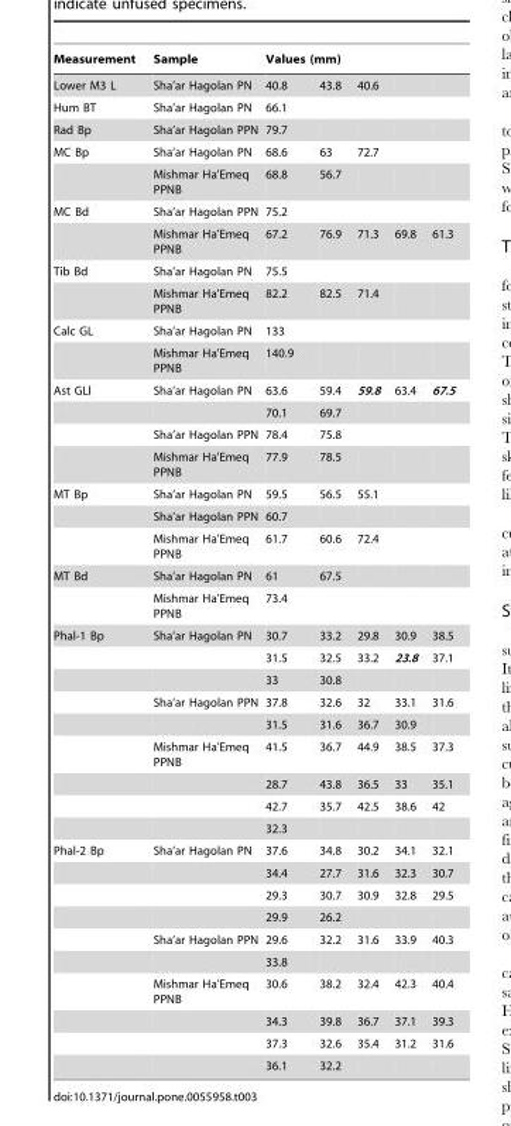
<table><thead><tr><td rowspan="2">Measurement Lower M3 L</td><td rowspan="2">Sample Sha’ar Hagolan PN</td><td colspan="5">Values (mm)</td></tr><tr><td>40.8</td><td>43.8</td><td>40.6</td><td></td><td></td></tr></thead><tbody><tr><td>Hum BT</td><td>Sha’ar Hagolan PN</td><td>66.1</td><td></td><td></td><td></td><td></td></tr><tr><td>Rad Bp</td><td>Sha’ar Hagolan PPN</td><td>79.7</td><td></td><td></td><td></td><td></td></tr><tr><td rowspan="2">MC Bp</td><td>Sha’ar Hagolan PN</td><td>68.6</td><td>63</td><td>72.7</td><td></td><td></td></tr><tr><td>Mishmar Ha’Emeq PPNB</td><td>68.8</td><td>56.7</td><td></td><td></td><td></td></tr><tr><td rowspan="2">MC Bd</td><td>Sha’ar Hagolan PPN</td><td>75.2</td><td></td><td></td><td></td><td></td></tr><tr><td>Mishmar Ha’Emeq PPNB</td><td>67.2</td><td>76.9</td><td>71.3</td><td>69.8</td><td>61.3</td></tr><tr><td rowspan="2">Tib Bd</td><td>Sha’ar Hagolan PN</td><td>75.5</td><td></td><td></td><td></td><td></td></tr><tr><td>Mishmar Ha’Emeq PPNB</td><td>82.2</td><td>82.5</td><td>71.4</td><td></td><td></td></tr><tr><td rowspan="2">Calc GL</td><td>Sha’ar Hagolan PN</td><td>133</td><td></td><td></td><td></td><td></td></tr><tr><td>Mishmar Ha’Emeq PPNB</td><td>140.9</td><td></td><td></td><td></td><td></td></tr><tr><td rowspan="4">Ast GLl</td><td>Sha’ar Hagolan PN</td><td>63.6</td><td>59.4</td><td>59.8</td><td>63.4</td><td>67.5</td></tr><tr><td></td><td>70.1</td><td>69.7</td><td></td><td></td><td></td></tr><tr><td>Sha’ar Hagolan PPN</td><td>78.4</td><td>75.8</td><td></td><td></td><td></td></tr><tr><td>Mishmar Ha’Emeq PPNB</td><td>77.9</td><td>78.5</td><td></td><td></td><td></td></tr><tr><td rowspan="3">MT Bp</td><td>Sha’ar Hagolan PN</td><td>59.5</td><td>56.5</td><td>55.1</td><td></td><td></td></tr><tr><td>Sha’ar Hagolan PPN</td><td>60.7</td><td></td><td></td><td></td><td></td></tr><tr><td>Mishmar Ha’Emeq PPNB</td><td>61.7</td><td>60.6</td><td>72.4</td><td></td><td></td></tr><tr><td rowspan="2">MT Bd</td><td>Sha’ar Hagolan PN</td><td>61</td><td>67.5</td><td></td><td></td><td></td></tr><tr><td>Mishmar Ha’Emeq PPNB</td><td>73.4</td><td></td><td></td><td></td><td></td></tr><tr><td rowspan="9">Phal-1 Bp</td><td>Sha’ar Hagolan PN</td><td>30.7</td><td>33.2</td><td>29.8</td><td>30.9</td><td>38.5</td></tr><tr><td></td><td>31.5</td><td>32.5</td><td>33.2</td><td>23.8</td><td>37.1</td></tr><tr><td></td><td>33</td><td>30.8</td><td></td><td></td><td></td></tr><tr><td>Sha’ar Hagolan PPN</td><td>37.8</td><td>32.6</td><td>32</td><td>33.1</td><td>31.6</td></tr><tr><td></td><td>31.5</td><td>31.6</td><td>36.7</td><td>30.9</td><td></td></tr><tr><td>Mishmar Ha’Emeq PPNB</td><td>41.5</td><td>36.7</td><td>44.9</td><td>38.5</td><td>37.3</td></tr><tr><td></td><td>28.7</td><td>43.8</td><td>36.5</td><td>33</td><td>35.1</td></tr><tr><td></td><td>42.7</td><td>35.7</td><td>42.5</td><td>38.6</td><td>42</td></tr><tr><td></td><td>32.3</td><td></td><td></td><td></td><td></td></tr><tr><td rowspan="10">Phal-2 Bp</td><td>Sha’ar Hagolan PN</td><td>37.6</td><td>34.8</td><td>30.2</td><td>34.1</td><td>32.1</td></tr><tr><td></td><td>34.4</td><td>27.7</td><td>31.6</td><td>32.3</td><td>30.7</td></tr><tr><td></td><td>29.3</td><td>30.7</td><td>30.9</td><td>32.8</td><td>29.5</td></tr><tr><td></td><td>29.9</td><td>26.2</td><td></td><td></td><td></td></tr><tr><td>Sha’ar Hagolan PPN</td><td>29.6</td><td>32.2</td><td>31.6</td><td>33.9</td><td>40.3</td></tr><tr><td></td><td>33.8</td><td></td><td></td><td></td><td></td></tr><tr><td>Mishmar Ha’Emeq PPNB</td><td>30.6</td><td>38.2</td><td>32.4</td><td>42.3</td><td>40.4</td></tr><tr><td></td><td>34.3</td><td>39.8</td><td>36.7</td><td>37.1</td><td>39.3</td></tr><tr><td></td><td>37.3</td><td>32.6</td><td>35.4</td><td>31.2</td><td>31.6</td></tr><tr><td></td><td>36.1</td><td>32.2</td><td></td><td></td><td></td></tr></tbody></table>